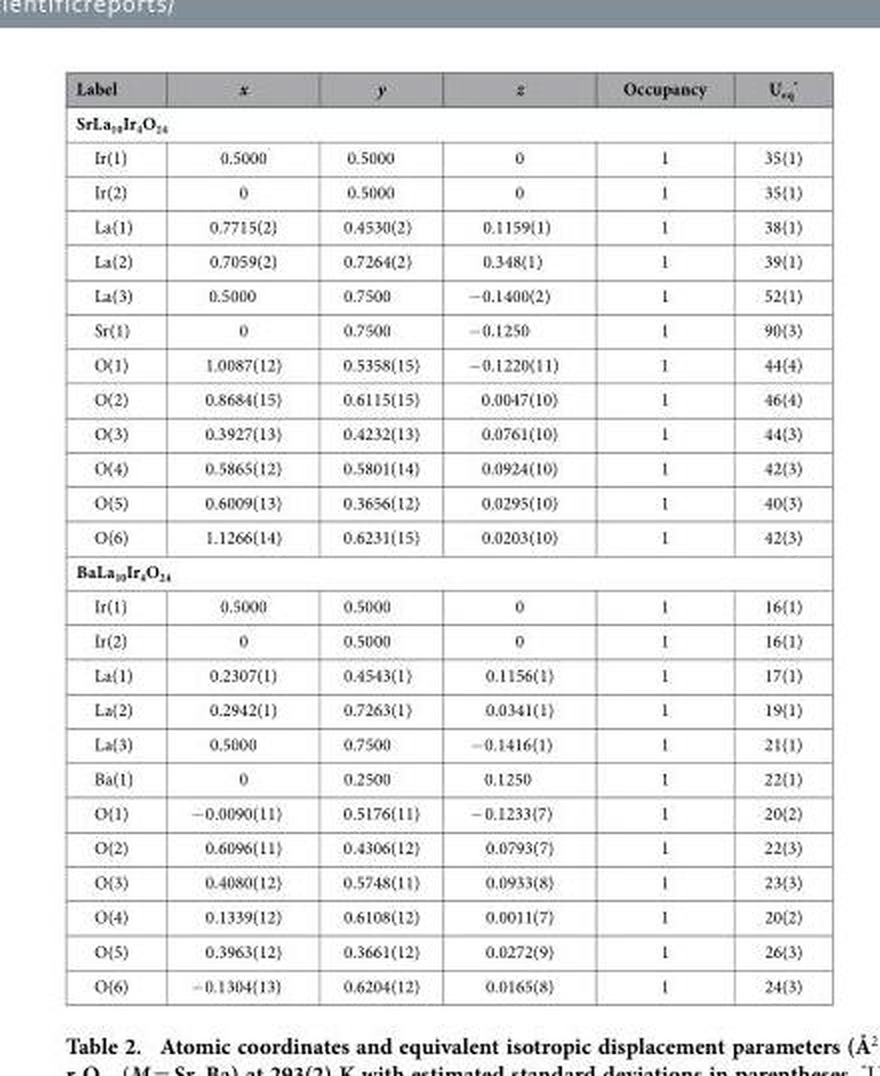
<table><thead><tr><td>Label</td><td>x</td><td>y</td><td>z</td><td>Occupancy</td><td>U<sub>eq</sub> *</td></tr></thead><tbody><tr><td colspan="6">SrLa<sub>10</sub>Ir<sub>4</sub>O<sub>24</sub></td></tr><tr><td>Ir(1)</td><td>0.5000</td><td>0.5000</td><td>0</td><td>1</td><td>35(1)</td></tr><tr><td>Ir(2)</td><td>0</td><td>0.5000</td><td>0</td><td>1</td><td>35(1)</td></tr><tr><td>La(1)</td><td>0.7715(2)</td><td>0.4530(2)</td><td>0.1159(1)</td><td>1</td><td>38(1)</td></tr><tr><td>La(2)</td><td>0.7059(2)</td><td>0.7264(2)</td><td>0.348(1)</td><td>1</td><td>39(1)</td></tr><tr><td>La(3)</td><td>0.5000</td><td>0.7500</td><td>− 0.1400(2)</td><td>1</td><td>52(1)</td></tr><tr><td>Sr(1)</td><td>0</td><td>0.7500</td><td>− 0.1250</td><td>1</td><td>90(3)</td></tr><tr><td>O(1)</td><td>1.0087(12)</td><td>0.5358(15)</td><td>− 0.1220(11)</td><td>1</td><td>44(4)</td></tr><tr><td>O(2)</td><td>0.8684(15)</td><td>0.6115(15)</td><td>0.0047(10)</td><td>1</td><td>46(4)</td></tr><tr><td>O(3)</td><td>0.3927(13)</td><td>0.4232(13)</td><td>0.0761(10)</td><td>1</td><td>44(3)</td></tr><tr><td>O(4)</td><td>0.5865(12)</td><td>0.5801(14)</td><td>0.0924(10)</td><td>1</td><td>42(3)</td></tr><tr><td>O(5)</td><td>0.6009(13)</td><td>0.3656(12)</td><td>0.0295(10)</td><td>1</td><td>40(3)</td></tr><tr><td>O(6)</td><td>1.1266(14)</td><td>0.6231(15)</td><td>0.0203(10)</td><td>1</td><td>42(3)</td></tr><tr><td colspan="6">BaLa<sub>10</sub>Ir<sub>4</sub>O<sub>24</sub></td></tr><tr><td>Ir(1)</td><td>0.5000</td><td>0.5000</td><td>0</td><td>1</td><td>16(1)</td></tr><tr><td>Ir(2)</td><td>0</td><td>0.5000</td><td>0</td><td>1</td><td>16(1)</td></tr><tr><td>La(1)</td><td>0.2307(1)</td><td>0.4543(1)</td><td>0.1156(1)</td><td>1</td><td>17(1)</td></tr><tr><td>La(2)</td><td>0.2942(1)</td><td>0.7263(1)</td><td>0.0341(1)</td><td>1</td><td>19(1)</td></tr><tr><td>La(3)</td><td>0.5000</td><td>0.7500</td><td>− 0.1416(1)</td><td>1</td><td>21(1)</td></tr><tr><td>Ba(1)</td><td>0</td><td>0.2500</td><td>0.1250</td><td>1</td><td>22(1)</td></tr><tr><td>O(1)</td><td>− 0.0090(11)</td><td>0.5176(11)</td><td>− 0.1233(7)</td><td>1</td><td>20(2)</td></tr><tr><td>O(2)</td><td>0.6096(11)</td><td>0.4306(12)</td><td>0.0793(7)</td><td>1</td><td>22(3)</td></tr><tr><td>O(3)</td><td>0.4080(12)</td><td>0.5748(11)</td><td>0.0933(8)</td><td>1</td><td>23(3)</td></tr><tr><td>O(4)</td><td>0.1339(12)</td><td>0.6108(12)</td><td>0.0011(7)</td><td>1</td><td>20(2)</td></tr><tr><td>O(5)</td><td>0.3963(12)</td><td>0.3661(12)</td><td>0.0272(9)</td><td>1</td><td>26(3)</td></tr><tr><td>O(6)</td><td>− 0.1304(13)</td><td>0.6204(12)</td><td>0.0165(8)</td><td>1</td><td>24(3)</td></tr></tbody></table>